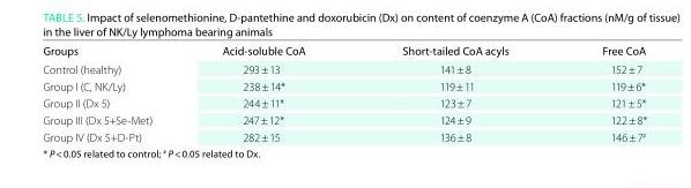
<table><thead><tr><td>Groups</td><td>Acid-soluble CoA</td><td>Short-tailed CoA acyls</td><td>Free CoA</td></tr></thead><tbody><tr><td>Control (healthy)</td><td>293 ± 13</td><td>141 ± 8</td><td>152 ± 7</td></tr><tr><td>Group I (C, NK/Ly)</td><td>238 ± 14*</td><td>119 ± 11</td><td>119 ± 6*</td></tr><tr><td>Group II (Dx 5)</td><td>244 ± 11*</td><td>123 ± 7</td><td>121 ± 5*</td></tr><tr><td>Group III (Dx 5+Se-Met)</td><td>247 ± 12*</td><td>124 ± 9</td><td>122 ± 8*</td></tr><tr><td>Group IV (Dx 5+D-Pt)</td><td>282 ± 15</td><td>136 ± 8</td><td>146 ± 7<sup>#</sup></td></tr></tbody></table>